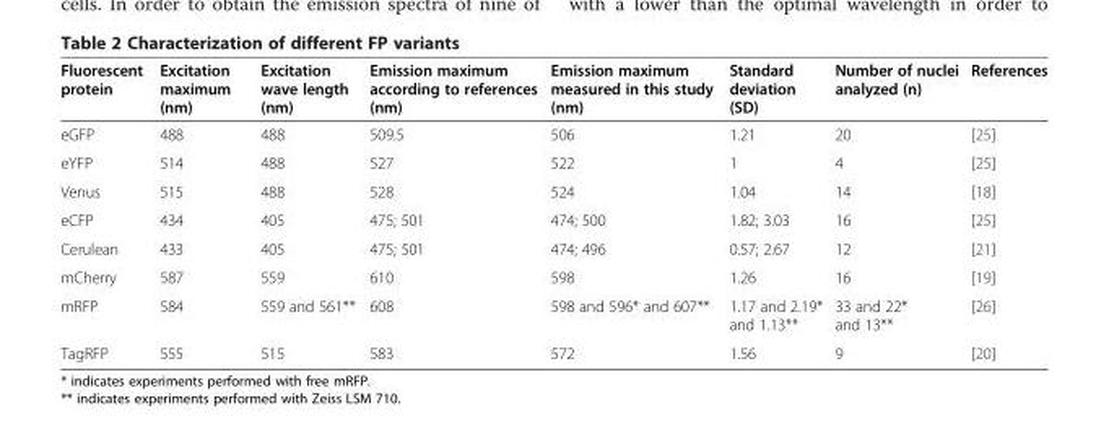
<table><thead><tr><td>Fluorescent protein</td><td>Excitation maximum (nm)</td><td>Excitation wave length (nm)</td><td>Emission maximum according to references (nm)</td><td>Emission maximum measured in this study (nm)</td><td>Standard deviation (SD)</td><td>Number of nuclei analyzed (n)</td><td>References</td></tr></thead><tbody><tr><td>eGFP</td><td>488</td><td>488</td><td>509.5</td><td>506</td><td>1.21</td><td>20</td><td>[25]</td></tr><tr><td>eYFP</td><td>514</td><td>488</td><td>527</td><td>522</td><td>1</td><td>4</td><td>[25]</td></tr><tr><td>Venus</td><td>515</td><td>488</td><td>528</td><td>524</td><td>1.04</td><td>14</td><td>[18]</td></tr><tr><td>eCFP</td><td>434</td><td>405</td><td>475; 501</td><td>474; 500</td><td>1.82; 3.03</td><td>16</td><td>[25]</td></tr><tr><td>Cerulean</td><td>433</td><td>405</td><td>475; 501</td><td>474; 496</td><td>0.57; 2.67</td><td>12</td><td>[21]</td></tr><tr><td>mCherry</td><td>587</td><td>559</td><td>610</td><td>598</td><td>1.26</td><td>16</td><td>[19]</td></tr><tr><td>mRFP</td><td>584</td><td>559 and 561**</td><td>608</td><td>598 and 596* and 607**</td><td>1.17 and 2.19* and 1.13**</td><td>33 and 22* and 13**</td><td>[26]</td></tr><tr><td>TagRFP</td><td>555</td><td>515</td><td>583</td><td>572</td><td>1.56</td><td>9</td><td>[20]</td></tr></tbody></table>